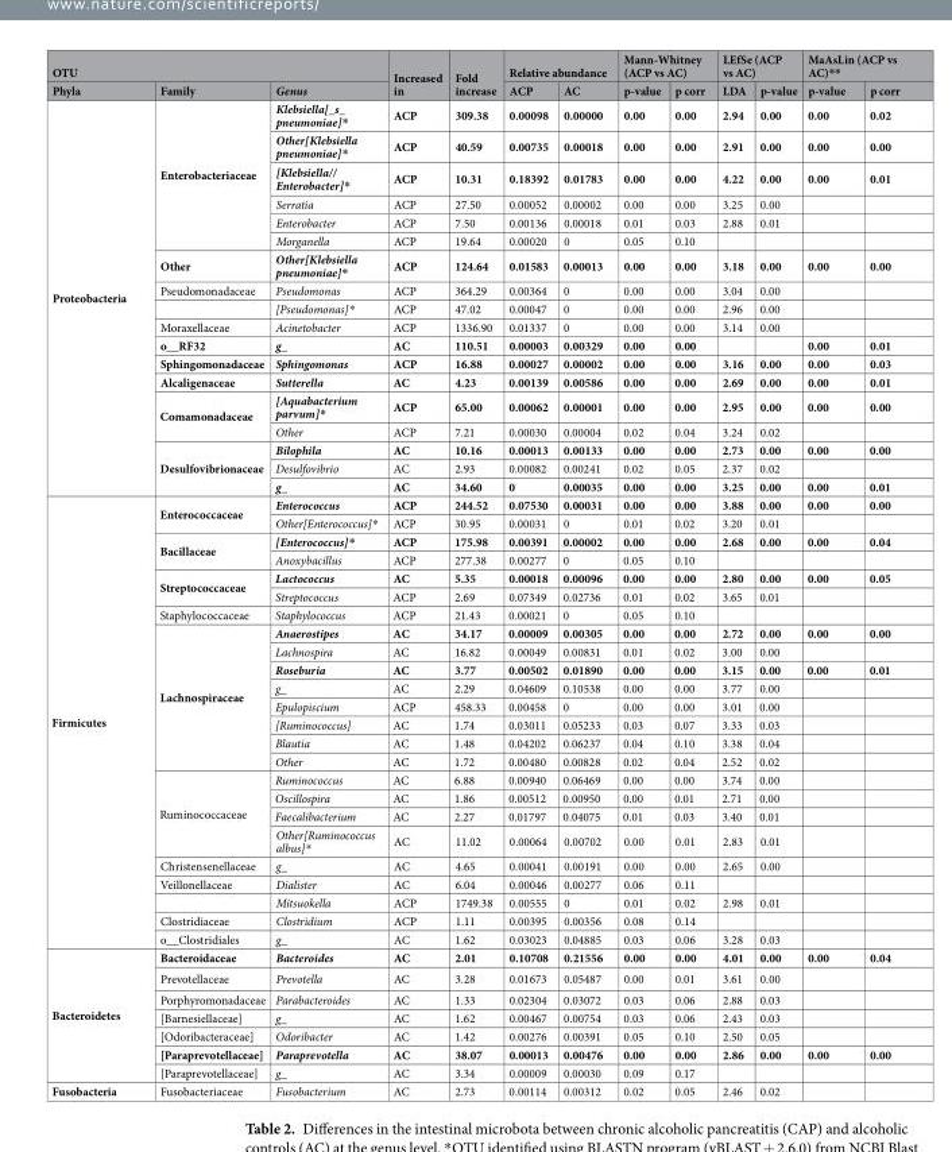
<table><thead><tr><td colspan="3">OTU</td><td rowspan="2">Increased in</td><td rowspan="2">Fold increase</td><td colspan="2">Relative abundance</td><td colspan="2">Mann-Whitney (ACP vs AC)</td><td colspan="2">LEfSe (ACP vs AC)</td><td colspan="2">MaAsLin (ACP vs AC)**</td></tr><tr><td>Phyla</td><td>Family</td><td>Genus</td><td>ACP</td><td>AC</td><td>p-value</td><td>p corr</td><td>LDA</td><td>p-value</td><td>p-value</td><td>p corr</td></tr></thead><tbody><tr><td rowspan="18">Proteobacteria</td><td rowspan="6">Enterobacteriaceae</td><td>Klebsiella[_s_ pneumoniae]*</td><td>ACP</td><td>309.38</td><td>0.00098</td><td>0.00000</td><td>0.00</td><td>0.00</td><td>2.94</td><td>0.00</td><td>0.00</td><td>0.02</td></tr><tr><td>Other[Klebsiella pneumoniae]*</td><td>ACP</td><td>40.59</td><td>0.00735</td><td>0.00018</td><td>0.00</td><td>0.00</td><td>2.91</td><td>0.00</td><td>0.00</td><td>0.00</td></tr><tr><td>[Klebsiella// Enterobacter]*</td><td>ACP</td><td>10.31</td><td>0.18392</td><td>0.01783</td><td>0.00</td><td>0.00</td><td>4.22</td><td>0.00</td><td>0.00</td><td>0.01</td></tr><tr><td>Serratia</td><td>ACP</td><td>27.50</td><td>0.00052</td><td>0.00002</td><td>0.00</td><td>0.00</td><td>3.25</td><td>0.00</td><td></td><td></td></tr><tr><td>Enterobacter</td><td>ACP</td><td>7.50</td><td>0.00136</td><td>0.00018</td><td>0.01</td><td>0.03</td><td>2.88</td><td>0.01</td><td></td><td></td></tr><tr><td>Morganella</td><td>ACP</td><td>19.64</td><td>0.00020</td><td>0</td><td>0.05</td><td>0.10</td><td></td><td></td><td></td><td></td></tr><tr><td>Other</td><td>Other[Klebsiella pneumoniae]*</td><td>ACP</td><td>124.64</td><td>0.01583</td><td>0.00013</td><td>0.00</td><td>0.00</td><td>3.18</td><td>0.00</td><td>0.00</td><td>0.00</td></tr><tr><td>Pseudomonadaceae</td><td>Pseudomonas</td><td>ACP</td><td>364.29</td><td>0.00364</td><td>0</td><td>0.00</td><td>0.00</td><td>3.04</td><td>0.00</td><td></td><td></td></tr><tr><td></td><td>[Pseudomonas]*</td><td>ACP</td><td>47.02</td><td>0.00047</td><td>0</td><td>0.00</td><td>0.00</td><td>2.96</td><td>0.00</td><td></td><td></td></tr><tr><td>Moraxellaceae</td><td>Acinetobacter</td><td>ACP</td><td>1336.90</td><td>0.01337</td><td>0</td><td>0.00</td><td>0.00</td><td>3.14</td><td>0.00</td><td></td><td></td></tr><tr><td>o__RF32</td><td>g_</td><td>AC</td><td>110.51</td><td>0.00003</td><td>0.00329</td><td>0.00</td><td>0.00</td><td></td><td></td><td>0.00</td><td>0.01</td></tr><tr><td>Sphingomonadaceae</td><td>Sphingomonas</td><td>ACP</td><td>16.88</td><td>0.00027</td><td>0.00002</td><td>0.00</td><td>0.00</td><td>3.16</td><td>0.00</td><td>0.00</td><td>0.03</td></tr><tr><td>Alcaligenaceae</td><td>Sutterella</td><td>AC</td><td>4.23</td><td>0.00139</td><td>0.00586</td><td>0.00</td><td>0.00</td><td>2.69</td><td>0.00</td><td>0.00</td><td>0.01</td></tr><tr><td rowspan="2">Comamonadaceae</td><td>[Aquabacterium parvum]*</td><td>ACP</td><td>65.00</td><td>0.00062</td><td>0.00001</td><td>0.00</td><td>0.00</td><td>2.95</td><td>0.00</td><td>0.00</td><td>0.00</td></tr><tr><td>Other</td><td>ACP</td><td>7.21</td><td>0.00030</td><td>0.00004</td><td>0.02</td><td>0.04</td><td>3.24</td><td>0.02</td><td></td><td></td></tr><tr><td rowspan="3">Desulfovibrionaceae</td><td>Bilophila</td><td>AC</td><td>10.16</td><td>0.00013</td><td>0.00133</td><td>0.00</td><td>0.00</td><td>2.73</td><td>0.00</td><td>0.00</td><td>0.00</td></tr><tr><td>Desulfovibrio</td><td>AC</td><td>2.93</td><td>0.00082</td><td>0.00241</td><td>0.02</td><td>0.05</td><td>2.37</td><td>0.02</td><td></td><td></td></tr><tr><td>g_</td><td>AC</td><td>34.60</td><td>0</td><td>0.00035</td><td>0.00</td><td>0.00</td><td>3.25</td><td>0.00</td><td>0.00</td><td>0.01</td></tr><tr><td rowspan="24">Firmicutes</td><td rowspan="2">Enterococcaceae</td><td>Enterococcus</td><td>ACP</td><td>244.52</td><td>0.07530</td><td>0.00031</td><td>0.00</td><td>0.00</td><td>3.88</td><td>0.00</td><td>0.00</td><td>0.00</td></tr><tr><td>Other[Enterococcus]*</td><td>ACP</td><td>30.95</td><td>0.00031</td><td>0</td><td>0.01</td><td>0.02</td><td>3.20</td><td>0.01</td><td></td><td></td></tr><tr><td rowspan="2">Bacillaceae</td><td>[Enterococcus]*</td><td>ACP</td><td>175.98</td><td>0.00391</td><td>0.00002</td><td>0.00</td><td>0.00</td><td>2.68</td><td>0.00</td><td>0.00</td><td>0.04</td></tr><tr><td>Anoxybacillus</td><td>ACP</td><td>277.38</td><td>0.00277</td><td>0</td><td>0.05</td><td>0.10</td><td></td><td></td><td></td><td></td></tr><tr><td rowspan="2">Streptococcaceae</td><td>Lactococcus</td><td>AC</td><td>5.35</td><td>0.00018</td><td>0.00096</td><td>0.00</td><td>0.00</td><td>2.80</td><td>0.00</td><td>0.00</td><td>0.05</td></tr><tr><td>Streptococcus</td><td>ACP</td><td>2.69</td><td>0.07349</td><td>0.02736</td><td>0.01</td><td>0.02</td><td>3.65</td><td>0.01</td><td></td><td></td></tr><tr><td>Staphylococcaceae</td><td>Staphylococcus</td><td>ACP</td><td>21.43</td><td>0.00021</td><td>0</td><td>0.05</td><td>0.10</td><td></td><td></td><td></td><td></td></tr><tr><td rowspan="8">Lachnospiraceae</td><td>Anaerostipes</td><td>AC</td><td>34.17</td><td>0.00009</td><td>0.00305</td><td>0.00</td><td>0.00</td><td>2.72</td><td>0.00</td><td>0.00</td><td>0.00</td></tr><tr><td>Lachnospira</td><td>AC</td><td>16.82</td><td>0.00049</td><td>0.00831</td><td>0.01</td><td>0.02</td><td>3.00</td><td>0.00</td><td></td><td></td></tr><tr><td>Roseburia</td><td>AC</td><td>3.77</td><td>0.00502</td><td>0.01890</td><td>0.00</td><td>0.00</td><td>3.15</td><td>0.00</td><td>0.00</td><td>0.01</td></tr><tr><td>g_</td><td>AC</td><td>2.29</td><td>0.04609</td><td>0.10538</td><td>0.00</td><td>0.00</td><td>3.77</td><td>0.00</td><td></td><td></td></tr><tr><td>Epulopiscium</td><td>ACP</td><td>458.33</td><td>0.00458</td><td>0</td><td>0.00</td><td>0.00</td><td>3.01</td><td>0.00</td><td></td><td></td></tr><tr><td>[Ruminococcus]</td><td>AC</td><td>1.74</td><td>0.03011</td><td>0.05233</td><td>0.03</td><td>0.07</td><td>3.33</td><td>0.03</td><td></td><td></td></tr><tr><td>Blautia</td><td>AC</td><td>1.48</td><td>0.04202</td><td>0.06237</td><td>0.04</td><td>0.10</td><td>3.38</td><td>0.04</td><td></td><td></td></tr><tr><td>Other</td><td>AC</td><td>1.72</td><td>0.00480</td><td>0.00828</td><td>0.02</td><td>0.04</td><td>2.52</td><td>0.02</td><td></td><td></td></tr><tr><td rowspan="4">Ruminococcaceae</td><td>Ruminococcus</td><td>AC</td><td>6.88</td><td>0.00940</td><td>0.06469</td><td>0.00</td><td>0.00</td><td>3.74</td><td>0.00</td><td></td><td></td></tr><tr><td>Oscillospira</td><td>AC</td><td>1.86</td><td>0.00512</td><td>0.00950</td><td>0.00</td><td>0.01</td><td>2.71</td><td>0.00</td><td></td><td></td></tr><tr><td>Faecalibacterium</td><td>AC</td><td>2.27</td><td>0.01797</td><td>0.04075</td><td>0.01</td><td>0.03</td><td>3.40</td><td>0.01</td><td></td><td></td></tr><tr><td>Other[Ruminococcus albus]*</td><td>AC</td><td>11.02</td><td>0.00064</td><td>0.00702</td><td>0.00</td><td>0.01</td><td>2.83</td><td>0.01</td><td></td><td></td></tr><tr><td>Christensenellaceae</td><td>g_</td><td>AC</td><td>4.65</td><td>0.00041</td><td>0.00191</td><td>0.00</td><td>0.00</td><td>2.65</td><td>0.00</td><td></td><td></td></tr><tr><td>Veillonellaceae</td><td>Dialister</td><td>AC</td><td>6.04</td><td>0.00046</td><td>0.00277</td><td>0.06</td><td>0.11</td><td></td><td></td><td></td><td></td></tr><tr><td></td><td>Mitsuokella</td><td>ACP</td><td>1749.38</td><td>0.00555</td><td>0</td><td>0.01</td><td>0.02</td><td>2.98</td><td>0.01</td><td></td><td></td></tr><tr><td>Clostridiaceae</td><td>Clostridium</td><td>ACP</td><td>1.11</td><td>0.00395</td><td>0.00356</td><td>0.08</td><td>0.14</td><td></td><td></td><td></td><td></td></tr><tr><td>o__Clostridiales</td><td>g_</td><td>AC</td><td>1.62</td><td>0.03023</td><td>0.04885</td><td>0.03</td><td>0.06</td><td>3.28</td><td>0.03</td><td></td><td></td></tr><tr><td rowspan="7">Bacteroidetes</td><td>Bacteroidaceae</td><td>Bacteroides</td><td>AC</td><td>2.01</td><td>0.10708</td><td>0.21556</td><td>0.00</td><td>0.00</td><td>4.01</td><td>0.00</td><td>0.00</td><td>0.04</td></tr><tr><td>Prevotellaceae</td><td>Prevotella</td><td>AC</td><td>3.28</td><td>0.01673</td><td>0.05487</td><td>0.00</td><td>0.01</td><td>3.61</td><td>0.00</td><td></td><td></td></tr><tr><td>Porphyromonadaceae</td><td>Parabacteroides</td><td>AC</td><td>1.33</td><td>0.02304</td><td>0.03072</td><td>0.03</td><td>0.06</td><td>2.88</td><td>0.03</td><td></td><td></td></tr><tr><td>[Barnesiellaceae]</td><td>g_</td><td>AC</td><td>1.62</td><td>0.00467</td><td>0.00754</td><td>0.03</td><td>0.06</td><td>2.43</td><td>0.03</td><td></td><td></td></tr><tr><td>[Odoribacteraceae]</td><td>Odoribacter</td><td>AC</td><td>1.42</td><td>0.00276</td><td>0.00391</td><td>0.05</td><td>0.10</td><td>2.50</td><td>0.05</td><td></td><td></td></tr><tr><td>[Paraprevotellaceae]</td><td>Paraprevotella</td><td>AC</td><td>38.07</td><td>0.00013</td><td>0.00476</td><td>0.00</td><td>0.00</td><td>2.86</td><td>0.00</td><td>0.00</td><td>0.00</td></tr><tr><td>[Paraprevotellaceae]</td><td>g_</td><td>AC</td><td>3.34</td><td>0.00009</td><td>0.00030</td><td>0.09</td><td>0.17</td><td></td><td></td><td></td><td></td></tr><tr><td>Fusobacteria</td><td>Fusobacteriaceae</td><td>Fusobacterium</td><td>AC</td><td>2.73</td><td>0.00114</td><td>0.00312</td><td>0.02</td><td>0.05</td><td>2.46</td><td>0.02</td><td></td><td></td></tr></tbody></table>